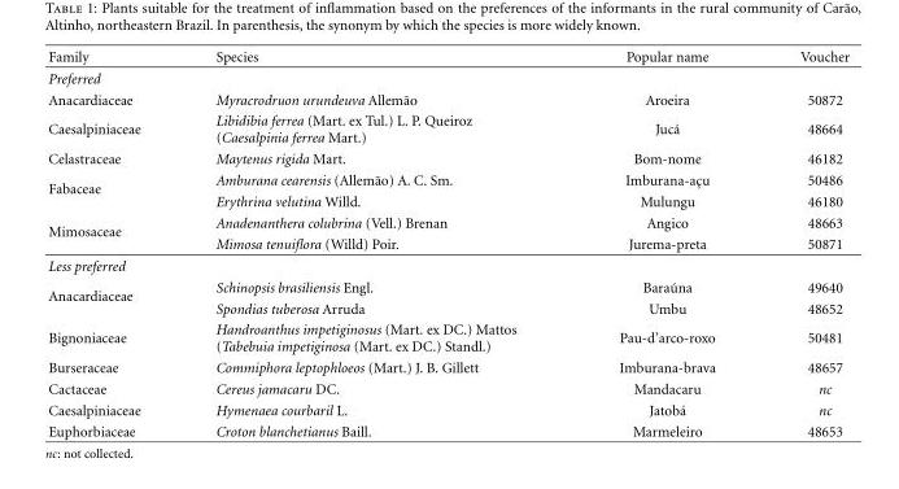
<table><thead><tr><td>Family</td><td>Species</td><td>Popular name</td><td>Voucher</td></tr></thead><tbody><tr><td colspan="4">Preferred</td></tr><tr><td>Anacardiaceae</td><td>Myracrodruon urundeuva Allem˜ao</td><td>Aroeira</td><td>50872</td></tr><tr><td>Caesalpiniaceae</td><td>Libidibia ferrea (Mart. ex Tul.) L. P. Queiroz (Caesalpinia ferrea Mart.)</td><td>Juc´a</td><td>48664</td></tr><tr><td>Celastraceae</td><td>Maytenus rigida Mart.</td><td>Bom-nome</td><td>46182</td></tr><tr><td rowspan="2">Fabaceae</td><td>Amburana cearensis (Allem˜ao) A. C. Sm.</td><td>Imburana-ac¸u</td><td>50486</td></tr><tr><td>Erythrina velutina Willd.</td><td>Mulungu</td><td>46180</td></tr><tr><td rowspan="2">Mimosaceae</td><td>Anadenanthera colubrina (Vell.) Brenan</td><td>Angico</td><td>48663</td></tr><tr><td>Mimosa tenuiflora (Willd) Poir.</td><td>Jurema-preta</td><td>50871</td></tr><tr><td colspan="4">Less preferred</td></tr><tr><td rowspan="2">Anacardiaceae</td><td>Schinopsis brasiliensis Engl.</td><td>Bara´una</td><td>49640</td></tr><tr><td>Spondias tuberosa Arruda</td><td>Umbu</td><td>48652</td></tr><tr><td>Bignoniaceae</td><td>Handroanthus impetiginosus (Mart. ex DC.) Mattos (Tabebuia impetiginosa (Mart. ex DC.) Standl.)</td><td>Pau-d’arco-roxo</td><td>50481</td></tr><tr><td>Burseraceae</td><td>Commiphora leptophloeos (Mart.) J. B. Gillett</td><td>Imburana-brava</td><td>48657</td></tr><tr><td>Cactaceae</td><td>Cereus jamacaru DC.</td><td>Mandacaru</td><td>nc</td></tr><tr><td>Caesalpiniaceae</td><td>Hymenaea courbaril L.</td><td>Jatob´a</td><td>nc</td></tr><tr><td>Euphorbiaceae</td><td>Croton blanchetianus Baill.</td><td>Marmeleiro</td><td>48653</td></tr></tbody></table>